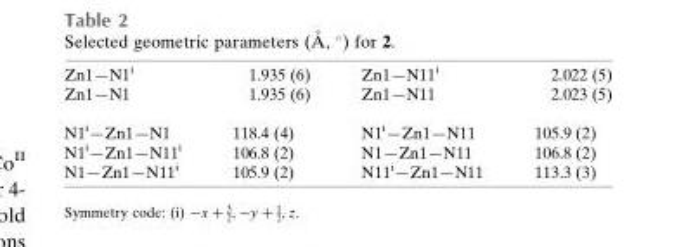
<table><tbody><tr><td>Zn1—N1<sup>i</sup></td><td>1.935 (6)</td><td>Zn1—N11<sup>i</sup></td><td>2.022 (5)</td></tr><tr><td>Zn1—N1</td><td>1.935 (6)</td><td>Zn1—N11</td><td>2.023 (5)</td></tr><tr><td>N1<sup>i</sup>—Zn1—N1</td><td>118.4 (4)</td><td>N1<sup>i</sup>—Zn1—N11</td><td>105.9 (2)</td></tr><tr><td>N1<sup>i</sup>—Zn1—N11<sup>i</sup></td><td>106.8 (2)</td><td>N1—Zn1—N11</td><td>106.8 (2)</td></tr><tr><td>N1—Zn1—N11<sup>i</sup></td><td>105.9 (2)</td><td>N11<sup>i</sup>—Zn1—N11</td><td>113.3 (3)</td></tr></tbody></table>